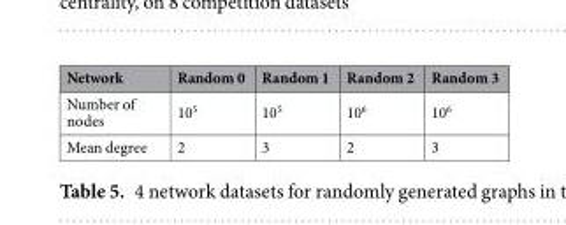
<table><thead><tr><td>Network</td><td>Random 0</td><td>Random 1</td><td>Random 2</td><td>Random 3</td></tr></thead><tbody><tr><td>Number of nodes</td><td>10<sup>5</sup></td><td>10<sup>5</sup></td><td>10<sup>6</sup></td><td>10<sup>6</sup></td></tr><tr><td>Mean degree</td><td>2</td><td>3</td><td>2</td><td>3</td></tr></tbody></table>